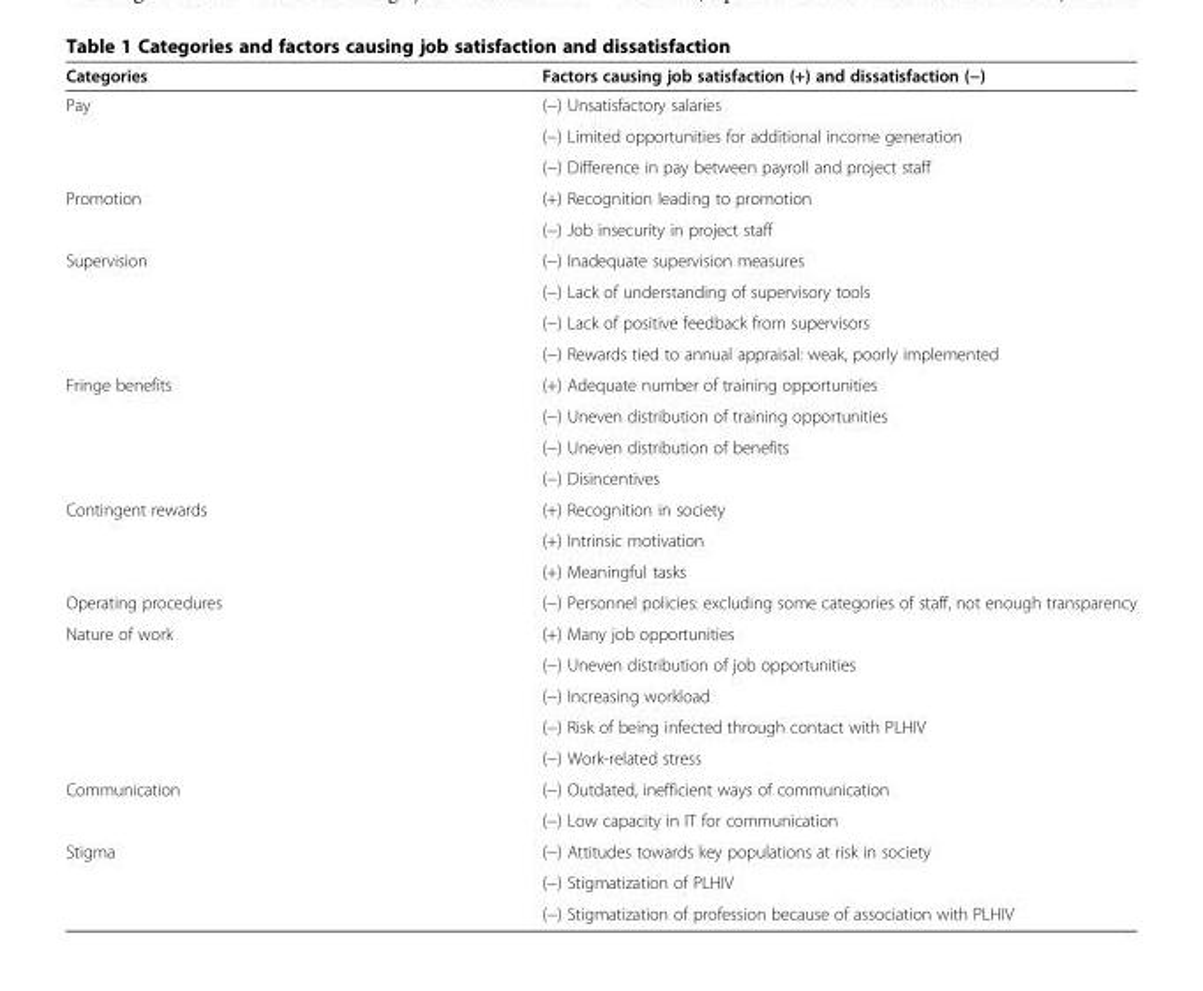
<table><thead><tr><td>Categories</td><td>Factors causing job satisfaction (+) and dissatisfaction (−)</td></tr></thead><tbody><tr><td rowspan="3">Pay</td><td>(−) Unsatisfactory salaries</td></tr><tr><td>(−) Limited opportunities for additional income generation</td></tr><tr><td>(−) Difference in pay between payroll and project staff</td></tr><tr><td rowspan="2">Promotion</td><td>(+) Recognition leading to promotion</td></tr><tr><td>(−) Job insecurity in project staff</td></tr><tr><td rowspan="4">Supervision</td><td>(−) Inadequate supervision measures</td></tr><tr><td>(−) Lack of understanding of supervisory tools</td></tr><tr><td>(−) Lack of positive feedback from supervisors</td></tr><tr><td>(−) Rewards tied to annual appraisal: weak, poorly implemented</td></tr><tr><td rowspan="4">Fringe benefits</td><td>(+) Adequate number of training opportunities</td></tr><tr><td>(−) Uneven distribution of training opportunities</td></tr><tr><td>(−) Uneven distribution of benefits</td></tr><tr><td>(−) Disincentives</td></tr><tr><td rowspan="3">Contingent rewards</td><td>(+) Recognition in society</td></tr><tr><td>(+) Intrinsic motivation</td></tr><tr><td>(+) Meaningful tasks</td></tr><tr><td>Operating procedures</td><td>(−) Personnel policies: excluding some categories of staff, not enough transparency</td></tr><tr><td rowspan="5">Nature of work</td><td>(+) Many job opportunities</td></tr><tr><td>(−) Uneven distribution of job opportunities</td></tr><tr><td>(−) Increasing workload</td></tr><tr><td>(−) Risk of being infected through contact with PLHIV</td></tr><tr><td>(−) Work-related stress</td></tr><tr><td rowspan="2">Communication</td><td>(−) Outdated, inefficient ways of communication</td></tr><tr><td>(−) Low capacity in IT for communication</td></tr><tr><td rowspan="3">Stigma</td><td>(−) Attitudes towards key populations at risk in society</td></tr><tr><td>(−) Stigmatization of PLHIV</td></tr><tr><td>(−) Stigmatization of profession because of association with PLHIV</td></tr></tbody></table>